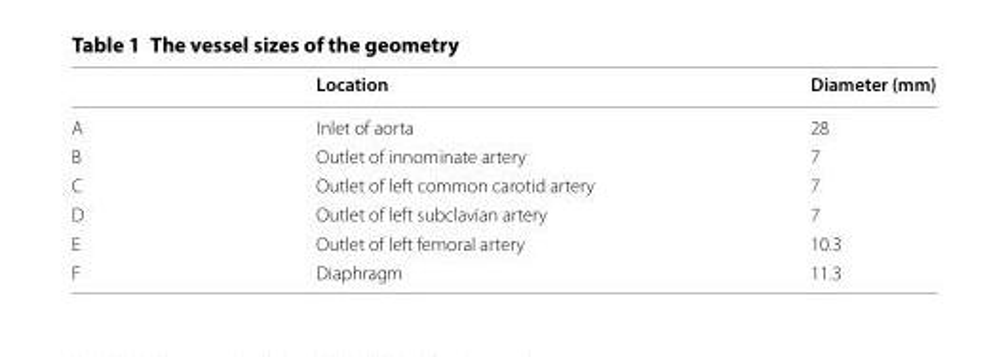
<table><thead><tr><td></td><td>Location</td><td>Diameter (mm)</td></tr></thead><tbody><tr><td>A</td><td>Inlet of aorta</td><td>28</td></tr><tr><td>B</td><td>Outlet of innominate artery</td><td>7</td></tr><tr><td>C</td><td>Outlet of left common carotid artery</td><td>7</td></tr><tr><td>D</td><td>Outlet of left subclavian artery</td><td>7</td></tr><tr><td>E</td><td>Outlet of left femoral artery</td><td>10.3</td></tr><tr><td>F</td><td>Diaphragm</td><td>11.3</td></tr></tbody></table>